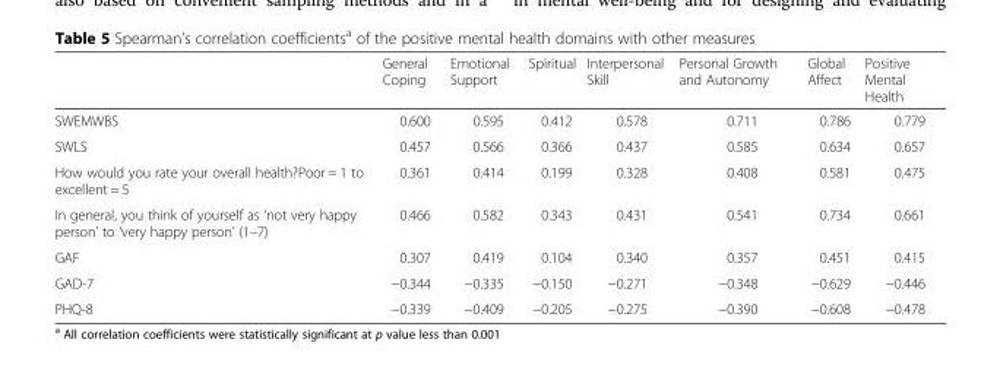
<table><thead><tr><td></td><td>General Coping</td><td>Emotional Support</td><td>Spiritual</td><td>Interpersonal Skill</td><td>Personal Growth and Autonomy</td><td>Global Affect</td><td>Positive Mental Health</td></tr></thead><tbody><tr><td>SWEMWBS</td><td>0.600</td><td>0.595</td><td>0.412</td><td>0.578</td><td>0.711</td><td>0.786</td><td>0.779</td></tr><tr><td>SWLS</td><td>0.457</td><td>0.566</td><td>0.366</td><td>0.437</td><td>0.585</td><td>0.634</td><td>0.657</td></tr><tr><td>How would you rate your overall health?Poor = 1 to excellent = 5</td><td>0.361</td><td>0.414</td><td>0.199</td><td>0.328</td><td>0.408</td><td>0.581</td><td>0.475</td></tr><tr><td>In general, you think of yourself as ‘not very happy person’ to ‘very happy person’ (1–7)</td><td>0.466</td><td>0.582</td><td>0.343</td><td>0.431</td><td>0.541</td><td>0.734</td><td>0.661</td></tr><tr><td>GAF</td><td>0.307</td><td>0.419</td><td>0.104</td><td>0.340</td><td>0.357</td><td>0.451</td><td>0.415</td></tr><tr><td>GAD-7</td><td>−0.344</td><td>−0.335</td><td>−0.150</td><td>−0.271</td><td>−0.348</td><td>−0.629</td><td>−0.446</td></tr><tr><td>PHQ-8</td><td>−0.339</td><td>−0.409</td><td>−0.205</td><td>−0.275</td><td>−0.390</td><td>−0.608</td><td>−0.478</td></tr></tbody></table>